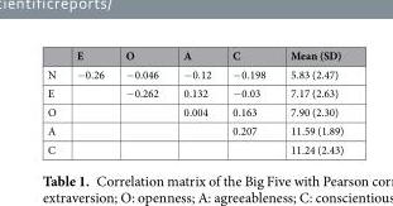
<table><thead><tr><td></td><td>E</td><td>O</td><td>A</td><td>C</td><td>Mean (SD)</td></tr></thead><tbody><tr><td>N</td><td>−0.26</td><td>−0.046</td><td>−0.12</td><td>−0.198</td><td>5.83 (2.47)</td></tr><tr><td>E</td><td></td><td>−0.262</td><td>0.132</td><td>−0.03</td><td>7.17 (2.63)</td></tr><tr><td>O</td><td></td><td></td><td>0.004</td><td>0.163</td><td>7.90 (2.30)</td></tr><tr><td>A</td><td></td><td></td><td></td><td>0.207</td><td>11.59 (1.89)</td></tr><tr><td>C</td><td></td><td></td><td></td><td></td><td>11.24 (2.43)</td></tr></tbody></table>